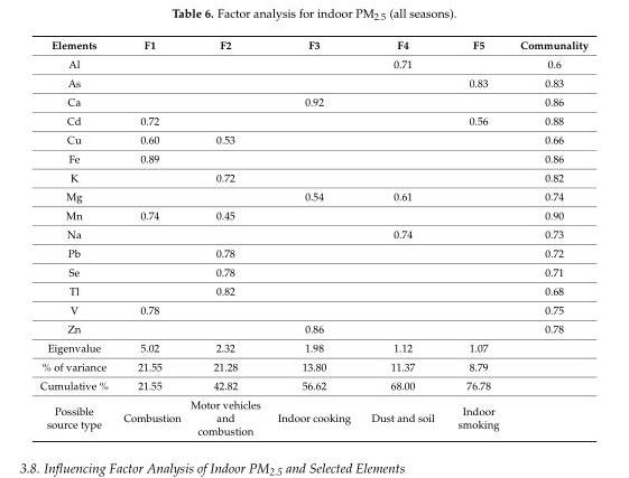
<table><thead><tr><td>Elements</td><td>F1</td><td>F2</td><td>F3</td><td>F4</td><td>F5</td><td>Communality</td></tr></thead><tbody><tr><td>Al</td><td></td><td></td><td></td><td>0.71</td><td></td><td>0.6</td></tr><tr><td>As</td><td></td><td></td><td></td><td></td><td>0.83</td><td>0.83</td></tr><tr><td>Ca</td><td></td><td></td><td>0.92</td><td></td><td></td><td>0.86</td></tr><tr><td>Cd</td><td>0.72</td><td></td><td></td><td></td><td>0.56</td><td>0.88</td></tr><tr><td>Cu</td><td>0.60</td><td>0.53</td><td></td><td></td><td></td><td>0.66</td></tr><tr><td>Fe</td><td>0.89</td><td></td><td></td><td></td><td></td><td>0.86</td></tr><tr><td>K</td><td></td><td>0.72</td><td></td><td></td><td></td><td>0.82</td></tr><tr><td>Mg</td><td></td><td></td><td>0.54</td><td>0.61</td><td></td><td>0.74</td></tr><tr><td>Mn</td><td>0.74</td><td>0.45</td><td></td><td></td><td></td><td>0.90</td></tr><tr><td>Na</td><td></td><td></td><td></td><td>0.74</td><td></td><td>0.73</td></tr><tr><td>Pb</td><td></td><td>0.78</td><td></td><td></td><td></td><td>0.72</td></tr><tr><td>Se</td><td></td><td>0.78</td><td></td><td></td><td></td><td>0.71</td></tr><tr><td>Tl</td><td></td><td>0.82</td><td></td><td></td><td></td><td>0.68</td></tr><tr><td>V</td><td>0.78</td><td></td><td></td><td></td><td></td><td>0.75</td></tr><tr><td>Zn</td><td></td><td></td><td>0.86</td><td></td><td></td><td>0.78</td></tr><tr><td>Eigenvalue</td><td>5.02</td><td>2.32</td><td>1.98</td><td>1.12</td><td>1.07</td><td></td></tr><tr><td>% of variance</td><td>21.55</td><td>21.28</td><td>13.80</td><td>11.37</td><td>8.79</td><td></td></tr><tr><td>Cumulative %</td><td>21.55</td><td>42.82</td><td>56.62</td><td>68.00</td><td>76.78</td><td></td></tr><tr><td>Possible source type</td><td>Combustion</td><td>Motor vehicles and combustion</td><td>Indoor cooking</td><td>Dust and soil</td><td>Indoor smoking</td><td></td></tr></tbody></table>